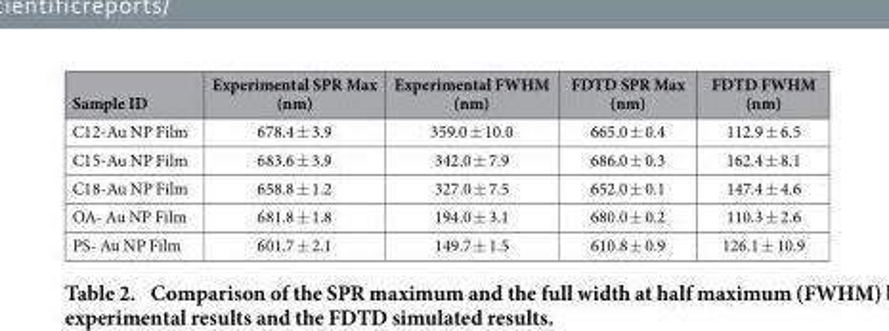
<table><thead><tr><td>Sample ID</td><td>Experimental SPR Max (nm)</td><td>Experimental FWHM (nm)</td><td>FDTD SPR Max (nm)</td><td>FDTD FWHM (nm)</td></tr></thead><tbody><tr><td>C12-Au NP Film</td><td>678.4 ± 3.9</td><td>359.0 ± 10.0</td><td>665.0 ± 0.4</td><td>112.9 ± 6.5</td></tr><tr><td>C15-Au NP Film</td><td>683.6 ± 3.9</td><td>342.0 ± 7.9</td><td>686.0 ± 0.3</td><td>162.4 ± 8.1</td></tr><tr><td>C18-Au NP Film</td><td>658.8 ± 1.2</td><td>327.0 ± 7.5</td><td>652.0 ± 0.1</td><td>147.4 ± 4.6</td></tr><tr><td>OA- Au NP Film</td><td>681.8 ± 1.8</td><td>194.0 ± 3.1</td><td>680.0 ± 0.2</td><td>110.3 ± 2.6</td></tr><tr><td>PS- Au NP Film</td><td>601.7 ± 2.1</td><td>149.7 ± 1.5</td><td>610.8 ± 0.9</td><td>126.1 ± 10.9</td></tr></tbody></table>